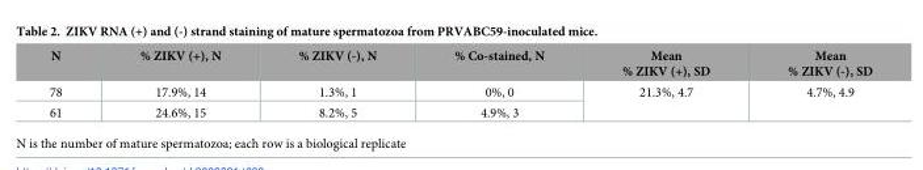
<table><thead><tr><td>N</td><td>% ZIKV (+), N</td><td>% ZIKV (-), N</td><td>% Co-stained, N</td><td>Mean % ZIKV (+), SD</td><td>Mean % ZIKV (-), SD</td></tr></thead><tbody><tr><td>78</td><td>17.9%, 14</td><td>1.3%, 1</td><td>0%, 0</td><td rowspan="2">21.3%, 4.7</td><td rowspan="2">4.7%, 4.9</td></tr><tr><td>61</td><td>24.6%, 15</td><td>8.2%, 5</td><td>4.9%, 3</td></tr></tbody></table>